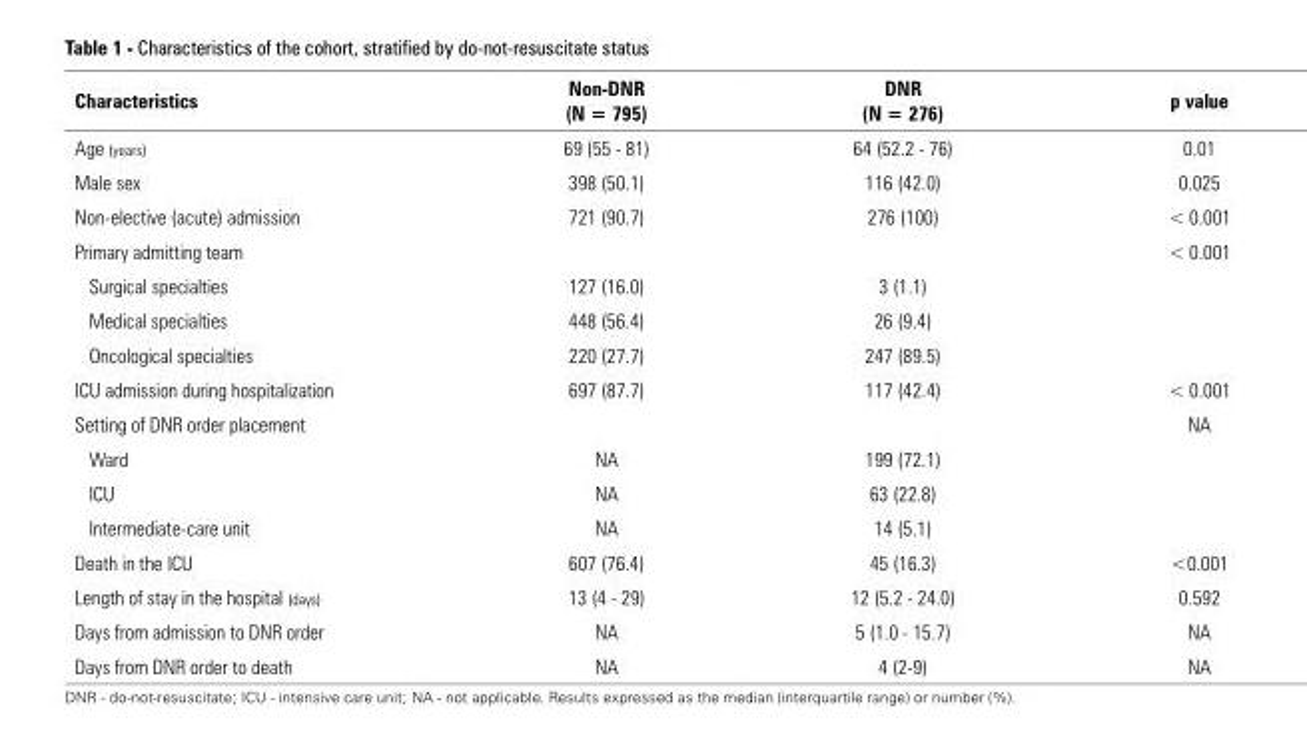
<table><thead><tr><td>Characteristics</td><td>Non-DNR (N = 795)</td><td>DNR (N = 276)</td><td>p value</td></tr></thead><tbody><tr><td>Age (years)</td><td>69 (55 - 81)</td><td>64 (52.2 - 76)</td><td>0.01</td></tr><tr><td>Male sex</td><td>398 (50.1)</td><td>116 (42.0)</td><td>0.025</td></tr><tr><td>Non-elective (acute) admission</td><td>721 (90.7)</td><td>276 (100)</td><td>&lt; 0.001</td></tr><tr><td>Primary admitting team</td><td></td><td></td><td>&lt; 0.001</td></tr><tr><td>Surgical specialties</td><td>127 (16.0)</td><td>3 (1.1)</td><td></td></tr><tr><td>Medical specialties</td><td>448 (56.4)</td><td>26 (9.4)</td><td></td></tr><tr><td>Oncological specialties</td><td>220 (27.7)</td><td>247 (89.5)</td><td></td></tr><tr><td>ICU admission during hospitalization</td><td>697 (87.7)</td><td>117 (42.4)</td><td>&lt; 0.001</td></tr><tr><td>Setting of DNR order placement</td><td></td><td></td><td>NA</td></tr><tr><td>Ward</td><td>NA</td><td>199 (72.1)</td><td></td></tr><tr><td>ICU</td><td>NA</td><td>63 (22.8)</td><td></td></tr><tr><td>Intermediate-care unit</td><td>NA</td><td>14 (5.1)</td><td></td></tr><tr><td>Death in the ICU</td><td>607 (76.4)</td><td>45 (16.3)</td><td>&lt;0.001</td></tr><tr><td>Length of stay in the hospital (days)</td><td>13 (4 - 29)</td><td>12 (5.2 - 24.0)</td><td>0.592</td></tr><tr><td>Days from admission to DNR order</td><td>NA</td><td>5 (1.0 - 15.7)</td><td>NA</td></tr><tr><td>Days from DNR order to death</td><td>NA</td><td>4 (2-9)</td><td>NA</td></tr></tbody></table>